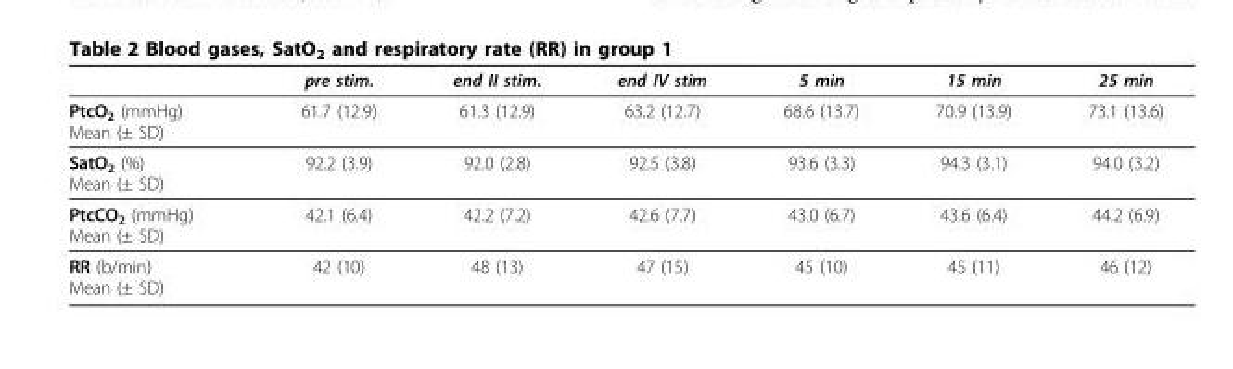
<table><thead><tr><td></td><td>pre stim.</td><td>end II stim.</td><td>end IV stim</td><td>5 min</td><td>15 min</td><td>25 min</td></tr></thead><tbody><tr><td>PtcO<sub>2</sub> (mmHg) Mean (± SD)</td><td>61.7 (12.9)</td><td>61.3 (12.9)</td><td>63.2 (12.7)</td><td>68.6 (13.7)</td><td>70.9 (13.9)</td><td>73.1 (13.6)</td></tr><tr><td>SatO<sub>2</sub> (%) Mean (± SD)</td><td>92.2 (3.9)</td><td>92.0 (2.8)</td><td>92.5 (3.8)</td><td>93.6 (3.3)</td><td>94.3 (3.1)</td><td>94.0 (3.2)</td></tr><tr><td>PtcCO<sub>2</sub> (mmHg) Mean (± SD)</td><td>42.1 (6.4)</td><td>42.2 (7.2)</td><td>42.6 (7.7)</td><td>43.0 (6.7)</td><td>43.6 (6.4)</td><td>44.2 (6.9)</td></tr><tr><td>RR (b/min) Mean (± SD)</td><td>42 (10)</td><td>48 (13)</td><td>47 (15)</td><td>45 (10)</td><td>45 (11)</td><td>46 (12)</td></tr></tbody></table>